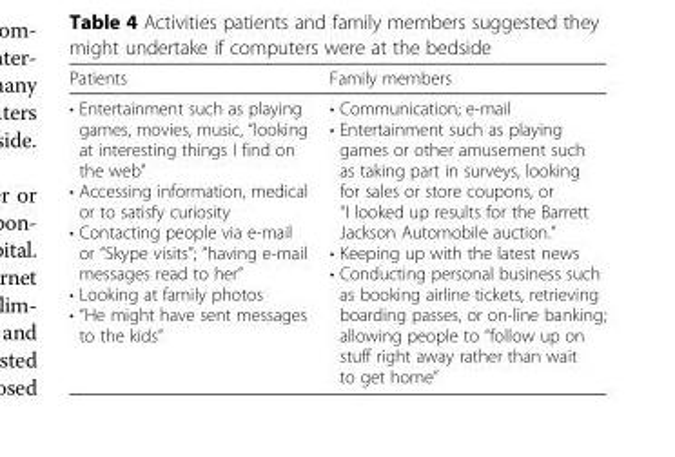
<table><thead><tr><td>Patients</td><td>Family members</td></tr></thead><tbody><tr><td>• Entertainment such as playing games, movies, music, “looking at interesting things I find on the web” • Accessing information, medical or to satisfy curiosity • Contacting people via e-mail or “Skype visits”; “having e-mail messages read to her” • Looking at family photos • “He might have sent messages to the kids”</td><td>• Communication; e-mail • Entertainment such as playing games or other amusement such as taking part in surveys, looking for sales or store coupons, or “I looked up results for the Barrett Jackson Automobile auction.” • Keeping up with the latest news • Conducting personal business such as booking airline tickets, retrieving boarding passes, or on-line banking; allowing people to “follow up on stuff right away rather than wait to get home”</td></tr></tbody></table>